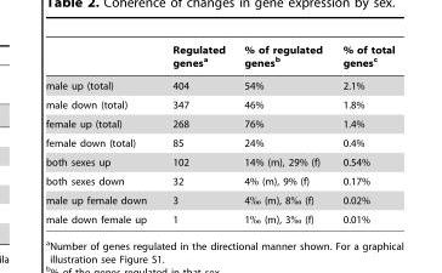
<table><thead><tr><td></td><td>Regulated genes<sup>a</sup></td><td>% of regulated genes<sup>b</sup></td><td>% of total genes<sup>c</sup></td></tr></thead><tbody><tr><td>male up (total)</td><td>404</td><td>54%</td><td>2.1%</td></tr><tr><td>male down (total)</td><td>347</td><td>46%</td><td>1.8%</td></tr><tr><td>female up (total)</td><td>268</td><td>76%</td><td>1.4%</td></tr><tr><td>female down (total)</td><td>85</td><td>24%</td><td>0.4%</td></tr><tr><td>both sexes up</td><td>102</td><td>14% (m), 29% (f)</td><td>0.54%</td></tr><tr><td>both sexes down</td><td>32</td><td>4% (m), 9% (f)</td><td>0.17%</td></tr><tr><td>male up female down</td><td>3</td><td>4‰ (m), 8‰ (f)</td><td>0.02%</td></tr><tr><td>male down female up</td><td>1</td><td>1‰ (m), 3‰ (f)</td><td>0.01%</td></tr></tbody></table>